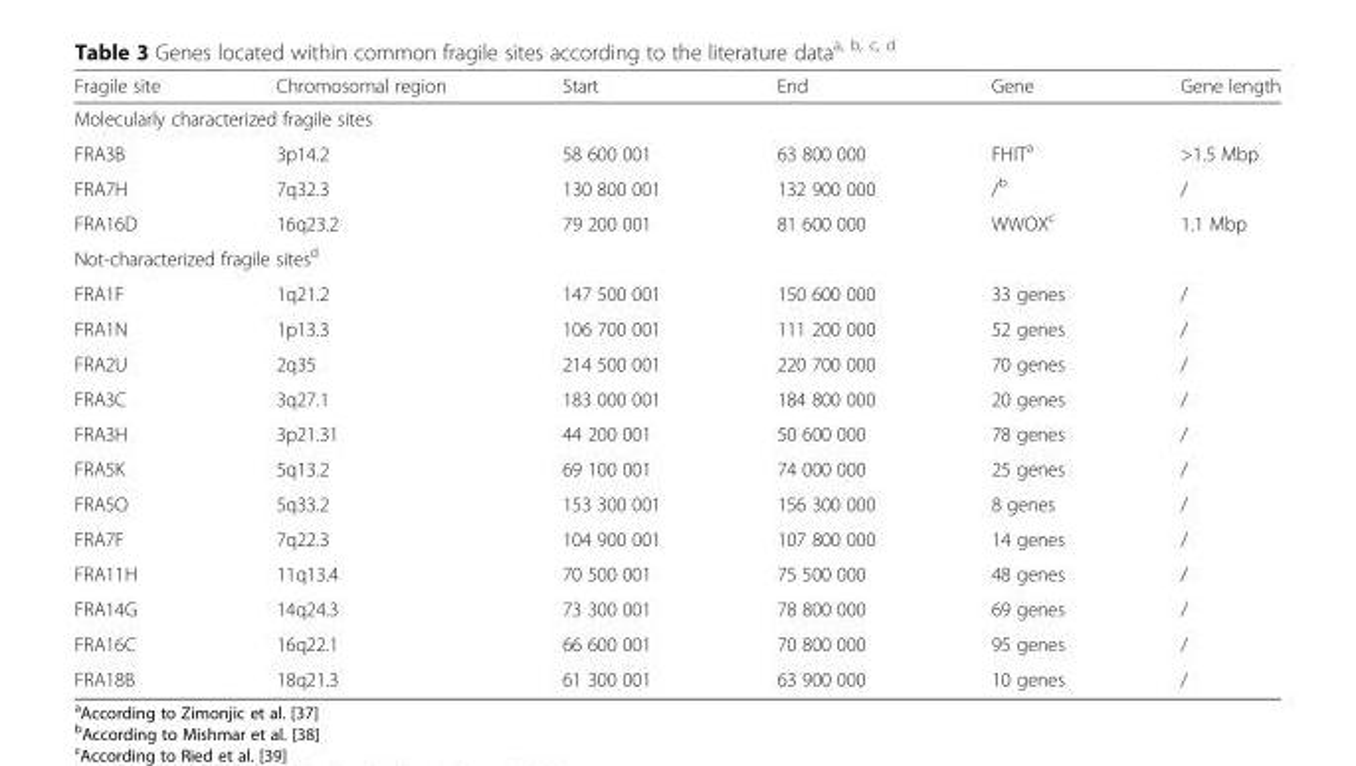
<table><thead><tr><td>Fragile site</td><td>Chromosomal region</td><td>Start</td><td>End</td><td>Gene</td><td>Gene length</td></tr></thead><tbody><tr><td colspan="6">Molecularly characterized fragile sites</td></tr><tr><td>FRA3B</td><td>3p14.2</td><td>58 600 001</td><td>63 800 000</td><td>FHIT<sup>a</sup></td><td>&gt;1.5 Mbp</td></tr><tr><td>FRA7H</td><td>7q32.3</td><td>130 800 001</td><td>132 900 000</td><td>/<sup>b</sup></td><td>/</td></tr><tr><td>FRA16D</td><td>16q23.2</td><td>79 200 001</td><td>81 600 000</td><td>WWOX<sup>c</sup></td><td>1.1 Mbp</td></tr><tr><td colspan="6">Not-characterized fragile sites<sup>d</sup></td></tr><tr><td>FRA1F</td><td>1q21.2</td><td>147 500 001</td><td>150 600 000</td><td>33 genes</td><td>/</td></tr><tr><td>FRA1N</td><td>1p13.3</td><td>106 700 001</td><td>111 200 000</td><td>52 genes</td><td>/</td></tr><tr><td>FRA2U</td><td>2q35</td><td>214 500 001</td><td>220 700 000</td><td>70 genes</td><td>/</td></tr><tr><td>FRA3C</td><td>3q27.1</td><td>183 000 001</td><td>184 800 000</td><td>20 genes</td><td>/</td></tr><tr><td>FRA3H</td><td>3p21.31</td><td>44 200 001</td><td>50 600 000</td><td>78 genes</td><td>/</td></tr><tr><td>FRA5K</td><td>5q13.2</td><td>69 100 001</td><td>74 000 000</td><td>25 genes</td><td>/</td></tr><tr><td>FRA5O</td><td>5q33.2</td><td>153 300 001</td><td>156 300 000</td><td>8 genes</td><td>/</td></tr><tr><td>FRA7F</td><td>7q22.3</td><td>104 900 001</td><td>107 800 000</td><td>14 genes</td><td>/</td></tr><tr><td>FRA11H</td><td>11q13.4</td><td>70 500 001</td><td>75 500 000</td><td>48 genes</td><td>/</td></tr><tr><td>FRA14G</td><td>14q24.3</td><td>73 300 001</td><td>78 800 000</td><td>69 genes</td><td>/</td></tr><tr><td>FRA16C</td><td>16q22.1</td><td>66 600 001</td><td>70 800 000</td><td>95 genes</td><td>/</td></tr><tr><td>FRA18B</td><td>18q21.3</td><td>61 300 001</td><td>63 900 000</td><td>10 genes</td><td>/</td></tr></tbody></table>